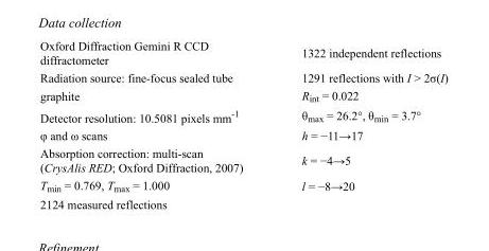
<table><tbody><tr><td>Oxford Diffraction Gemini R CCD diffractometer</td><td>1322 independent reflections</td></tr><tr><td>Radiation source: fine-focus sealed tube</td><td>1291 reflections with I &gt; 2σ(I)</td></tr><tr><td>graphite</td><td>R<sub>int</sub> = 0.022</td></tr><tr><td>Detector resolution: 10.5081 pixels mm<sup>-1</sup></td><td>θ<sub>max</sub> = 26.2°, θ<sub>min</sub> = 3.7°</td></tr><tr><td>φ and ω scans</td><td>h = −11→17</td></tr><tr><td>Absorption correction: multi-scan (CrysAlis RED; Oxford Diffraction, 2007)</td><td>k = −4→5</td></tr><tr><td>T<sub>min</sub> = 0.769, T<sub>max</sub> = 1.000</td><td>l = −8→20</td></tr><tr><td>2124 measured reflections</td><td></td></tr></tbody></table>